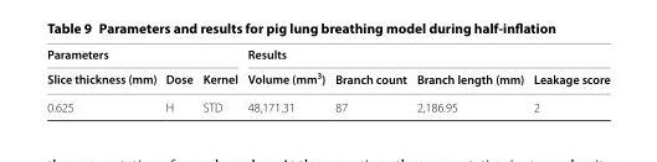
<table><thead><tr><td colspan="3">Parameters</td><td colspan="4">Results</td></tr><tr><td>Slice thickness (mm)</td><td>Dose</td><td>Kernel</td><td>Volume (mm<sup>3</sup>)</td><td>Branch count</td><td>Branch length (mm)</td><td>Leakage score</td></tr></thead><tbody><tr><td>0.625</td><td>H</td><td>STD</td><td>48,171.31</td><td>87</td><td>2,186.95</td><td>2</td></tr></tbody></table>